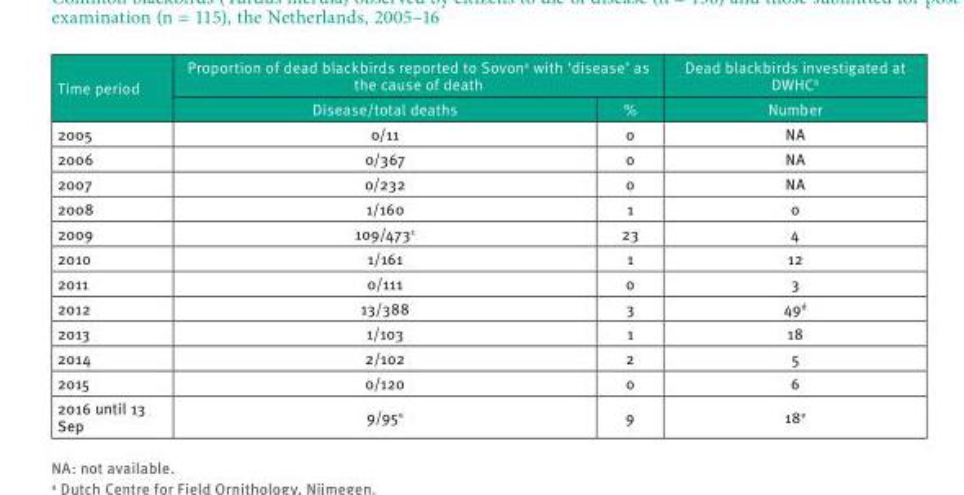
<table><thead><tr><td rowspan="2">Time period</td><td colspan="2">Proportion of dead blackbirds reported to Sovon<sup>a</sup> with ‘disease’ as the cause of death</td><td rowspan="2">Dead blackbirds investigated at DWHC<sup>b</sup> Number</td></tr><tr><td>Disease/total deaths</td><td>%</td></tr></thead><tbody><tr><td>2005</td><td>0/11</td><td>0</td><td>NA</td></tr><tr><td>2006</td><td>0/367</td><td>0</td><td>NA</td></tr><tr><td>2007</td><td>0/232</td><td>0</td><td>NA</td></tr><tr><td>2008</td><td>1/160</td><td>1</td><td>0</td></tr><tr><td>2009</td><td>109/473<sup>c</sup></td><td>23</td><td>4</td></tr><tr><td>2010</td><td>1/161</td><td>1</td><td>12</td></tr><tr><td>2011</td><td>0/111</td><td>0</td><td>3</td></tr><tr><td>2012</td><td>13/388</td><td>3</td><td>49<sup>d</sup></td></tr><tr><td>2013</td><td>1/103</td><td>1</td><td>18</td></tr><tr><td>2014</td><td>2/102</td><td>2</td><td>5</td></tr><tr><td>2015</td><td>0/120</td><td>0</td><td>6</td></tr><tr><td>2016 until 13 Sep</td><td>9/95<sup>e</sup></td><td>9</td><td>18<sup>e</sup></td></tr></tbody></table>